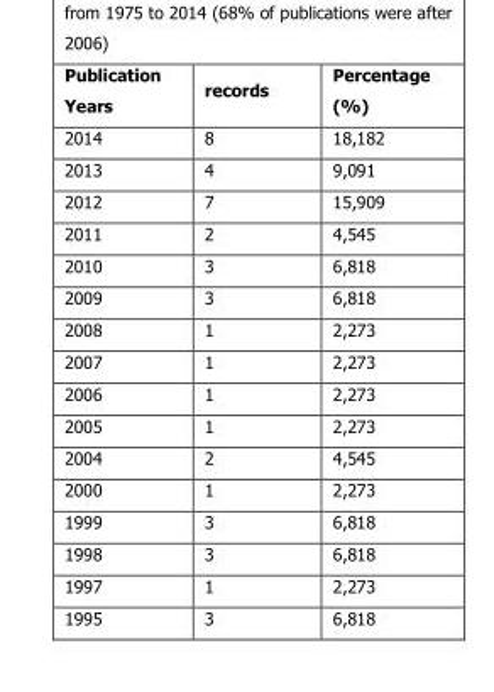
<table><thead><tr><td>Publication Years</td><td>records</td><td>Percentage (%)</td></tr></thead><tbody><tr><td>2014</td><td>8</td><td>18,182</td></tr><tr><td>2013</td><td>4</td><td>9,091</td></tr><tr><td>2012</td><td>7</td><td>15,909</td></tr><tr><td>2011</td><td>2</td><td>4,545</td></tr><tr><td>2010</td><td>3</td><td>6,818</td></tr><tr><td>2009</td><td>3</td><td>6,818</td></tr><tr><td>2008</td><td>1</td><td>2,273</td></tr><tr><td>2007</td><td>1</td><td>2,273</td></tr><tr><td>2006</td><td>1</td><td>2,273</td></tr><tr><td>2005</td><td>1</td><td>2,273</td></tr><tr><td>2004</td><td>2</td><td>4,545</td></tr><tr><td>2000</td><td>1</td><td>2,273</td></tr><tr><td>1999</td><td>3</td><td>6,818</td></tr><tr><td>1998</td><td>3</td><td>6,818</td></tr><tr><td>1997</td><td>1</td><td>2,273</td></tr><tr><td>1995</td><td>3</td><td>6,818</td></tr></tbody></table>